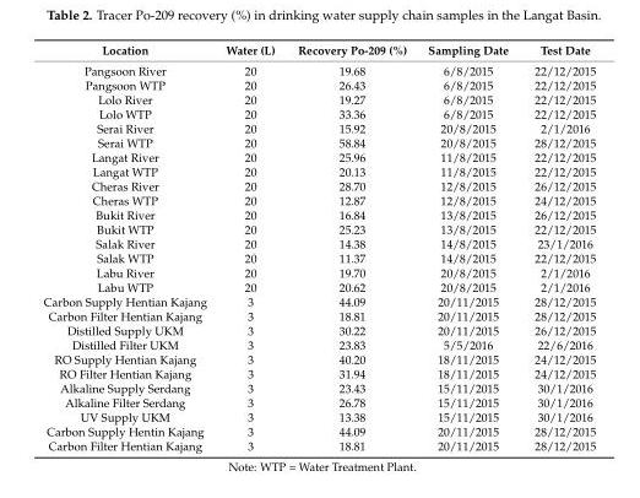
<table><thead><tr><td>Location</td><td>Water (L)</td><td>Recovery Po-209 (%)</td><td>Sampling Date</td><td>Test Date</td></tr></thead><tbody><tr><td>Pangsoon River</td><td>20</td><td>19.68</td><td>6/8/2015</td><td>22/12/2015</td></tr><tr><td>Pangsoon WTP</td><td>20</td><td>26.43</td><td>6/8/2015</td><td>22/12/2015</td></tr><tr><td>Lolo River</td><td>20</td><td>19.27</td><td>6/8/2015</td><td>22/12/2015</td></tr><tr><td>Lolo WTP</td><td>20</td><td>33.36</td><td>6/8/2015</td><td>22/12/2015</td></tr><tr><td>Serai River</td><td>20</td><td>15.92</td><td>20/8/2015</td><td>2/1/2016</td></tr><tr><td>Serai WTP</td><td>20</td><td>58.84</td><td>20/8/2015</td><td>28/12/2015</td></tr><tr><td>Langat River</td><td>20</td><td>25.96</td><td>11/8/2015</td><td>22/12/2015</td></tr><tr><td>Langat WTP</td><td>20</td><td>20.13</td><td>11/8/2015</td><td>22/12/2015</td></tr><tr><td>Cheras River</td><td>20</td><td>28.70</td><td>12/8/2015</td><td>26/12/2015</td></tr><tr><td>Cheras WTP</td><td>20</td><td>12.87</td><td>12/8/2015</td><td>24/12/2015</td></tr><tr><td>Bukit River</td><td>20</td><td>16.84</td><td>13/8/2015</td><td>26/12/2015</td></tr><tr><td>Bukit WTP</td><td>20</td><td>25.23</td><td>13/8/2015</td><td>22/12/2015</td></tr><tr><td>Salak River</td><td>20</td><td>14.38</td><td>14/8/2015</td><td>23/1/2016</td></tr><tr><td>Salak WTP</td><td>20</td><td>11.37</td><td>14/8/2015</td><td>22/12/2015</td></tr><tr><td>Labu River</td><td>20</td><td>19.70</td><td>20/8/2015</td><td>2/1/2016</td></tr><tr><td>Labu WTP</td><td>20</td><td>20.62</td><td>20/8/2015</td><td>2/1/2016</td></tr><tr><td>Carbon Supply Hentian Kajang</td><td>3</td><td>44.09</td><td>20/11/2015</td><td>28/12/2015</td></tr><tr><td>Carbon Filter Hentian Kajang</td><td>3</td><td>18.81</td><td>20/11/2015</td><td>28/12/2015</td></tr><tr><td>Distilled Supply UKM</td><td>3</td><td>30.22</td><td>20/11/2015</td><td>26/12/2015</td></tr><tr><td>Distilled Filter UKM</td><td>3</td><td>23.83</td><td>5/5/2016</td><td>22/6/2016</td></tr><tr><td>RO Supply Hentian Kajang</td><td>3</td><td>40.20</td><td>18/11/2015</td><td>24/12/2015</td></tr><tr><td>RO Filter Hentian Kajang</td><td>3</td><td>31.94</td><td>18/11/2015</td><td>24/12/2015</td></tr><tr><td>Alkaline Supply Serdang</td><td>3</td><td>23.43</td><td>15/11/2015</td><td>30/1/2016</td></tr><tr><td>Alkaline Filter Serdang</td><td>3</td><td>26.78</td><td>15/11/2015</td><td>30/1/2016</td></tr><tr><td>UV Supply UKM</td><td>3</td><td>13.38</td><td>15/11/2015</td><td>30/1/2016</td></tr><tr><td>Carbon Supply Hentin Kajang</td><td>3</td><td>44.09</td><td>20/11/2015</td><td>28/12/2015</td></tr><tr><td>Carbon Filter Hentian Kajang</td><td>3</td><td>18.81</td><td>20/11/2015</td><td>28/12/2015</td></tr></tbody></table>